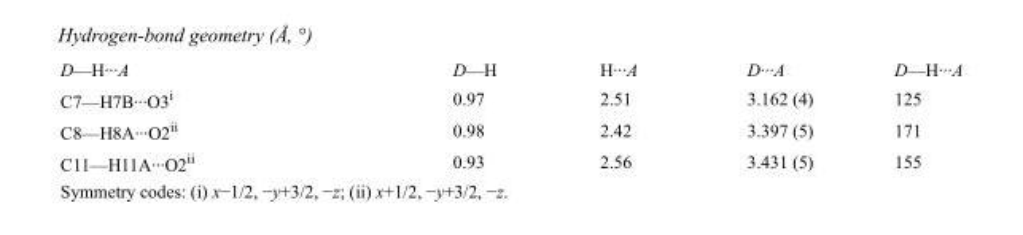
<table><tbody><tr><td>D—H···A</td><td>D—H</td><td>H···A</td><td>D···A</td><td>D—H···A</td></tr><tr><td>C7—H7B···O3<sup>i</sup></td><td>0.97</td><td>2.51</td><td>3.162 (4)</td><td>125</td></tr><tr><td>C8—H8A···O2<sup>ii</sup></td><td>0.98</td><td>2.42</td><td>3.397 (5)</td><td>171</td></tr><tr><td>C11—H11A···O2<sup>ii</sup></td><td>0.93</td><td>2.56</td><td>3.431 (5)</td><td>155</td></tr></tbody></table>